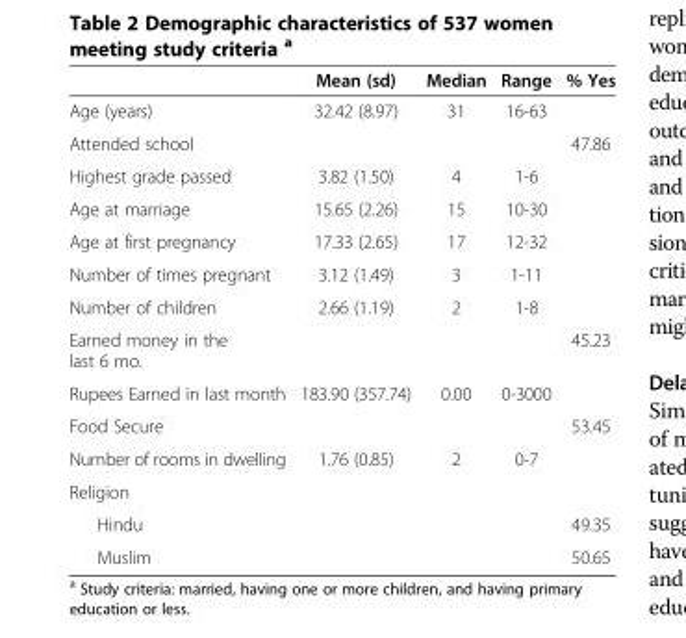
<table><thead><tr><td></td><td>Mean (sd)</td><td>Median</td><td>Range</td><td>% Yes</td></tr></thead><tbody><tr><td>Age (years)</td><td>32.42 (8.97)</td><td>31</td><td>16-63</td><td></td></tr><tr><td>Attended school</td><td></td><td></td><td></td><td>47.86</td></tr><tr><td>Highest grade passed</td><td>3.82 (1.50)</td><td>4</td><td>1-6</td><td></td></tr><tr><td>Age at marriage</td><td>15.65 (2.26)</td><td>15</td><td>10-30</td><td></td></tr><tr><td>Age at first pregnancy</td><td>17.33 (2.65)</td><td>17</td><td>12-32</td><td></td></tr><tr><td>Number of times pregnant</td><td>3.12 (1.49)</td><td>3</td><td>1-11</td><td></td></tr><tr><td>Number of children</td><td>2.66 (1.19)</td><td>2</td><td>1-8</td><td></td></tr><tr><td>Earned money in the last 6 mo.</td><td></td><td></td><td></td><td>45.23</td></tr><tr><td>Rupees Earned in last month</td><td>183.90 (357.74)</td><td>0.00</td><td>0-3000</td><td></td></tr><tr><td>Food Secure</td><td></td><td></td><td></td><td>53.45</td></tr><tr><td>Number of rooms in dwelling</td><td>1.76 (0.85)</td><td>2</td><td>0-7</td><td></td></tr><tr><td colspan="5">Religion</td></tr><tr><td>Hindu</td><td></td><td></td><td></td><td>49.35</td></tr><tr><td>Muslim</td><td></td><td></td><td></td><td>50.65</td></tr></tbody></table>